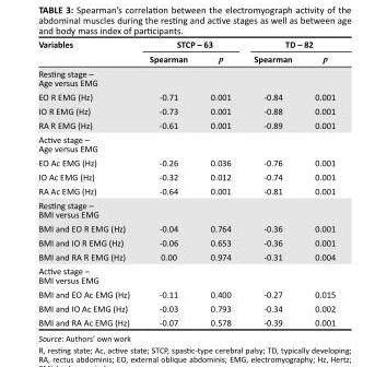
<table><thead><tr><td rowspan="2">Variables</td><td colspan="2">STCP – 63</td><td colspan="2">TD – 82</td></tr><tr><td>Spearman</td><td>p</td><td>Spearman</td><td>p</td></tr></thead><tbody><tr><td colspan="5">Resting stage – Age versus EMG</td></tr><tr><td>EO R EMG (Hz)</td><td>-0.71</td><td>0.001</td><td>-0.84</td><td>0.001</td></tr><tr><td>IO R EMG (Hz)</td><td>-0.73</td><td>0.001</td><td>-0.88</td><td>0.001</td></tr><tr><td>RA R EMG (Hz)</td><td>-0.61</td><td>0.001</td><td>-0.89</td><td>0.001</td></tr><tr><td colspan="5">Active stage – Age versus EMG</td></tr><tr><td>EO Ac EMG (Hz)</td><td>-0.26</td><td>0.036</td><td>-0.76</td><td>0.001</td></tr><tr><td>IO Ac EMG (Hz)</td><td>-0.32</td><td>0.012</td><td>-0.74</td><td>0.001</td></tr><tr><td>RA Ac EMG (Hz)</td><td>-0.64</td><td>0.001</td><td>-0.81</td><td>0.001</td></tr><tr><td colspan="5">Resting stage – BMI versus EMG</td></tr><tr><td>BMI and EO R EMG (Hz)</td><td>-0.04</td><td>0.764</td><td>-0.36</td><td>0.001</td></tr><tr><td>BMI and IO R EMG (Hz)</td><td>-0.06</td><td>0.653</td><td>-0.36</td><td>0.001</td></tr><tr><td>BMI and RA R EMG (Hz)</td><td>0.00</td><td>0.974</td><td>-0.31</td><td>0.004</td></tr><tr><td colspan="5">Active stage – BMI versus EMG</td></tr><tr><td>BMI and EO Ac EMG (Hz)</td><td>-0.11</td><td>0.400</td><td>-0.27</td><td>0.015</td></tr><tr><td>BMI and IO Ac EMG (Hz)</td><td>-0.03</td><td>0.793</td><td>-0.34</td><td>0.002</td></tr><tr><td>BMI and RA Ac EMG (Hz)</td><td>-0.07</td><td>0.578</td><td>-0.39</td><td>0.001</td></tr></tbody></table>